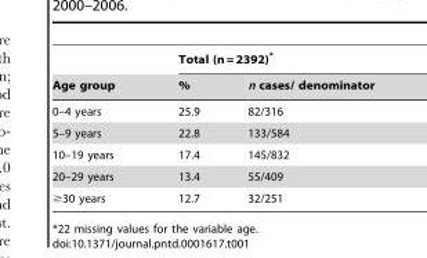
<table><thead><tr><td rowspan="2">Age group</td><td colspan="2">Total (n = 2392)*</td></tr><tr><td>%</td><td>n cases/ denominator</td></tr></thead><tbody><tr><td>0–4 years</td><td>25.9</td><td>82/316</td></tr><tr><td>5–9 years</td><td>22.8</td><td>133/584</td></tr><tr><td>10–19 years</td><td>17.4</td><td>145/832</td></tr><tr><td>20–29 years</td><td>13.4</td><td>55/409</td></tr><tr><td>≥30 years</td><td>12.7</td><td>32/251</td></tr></tbody></table>